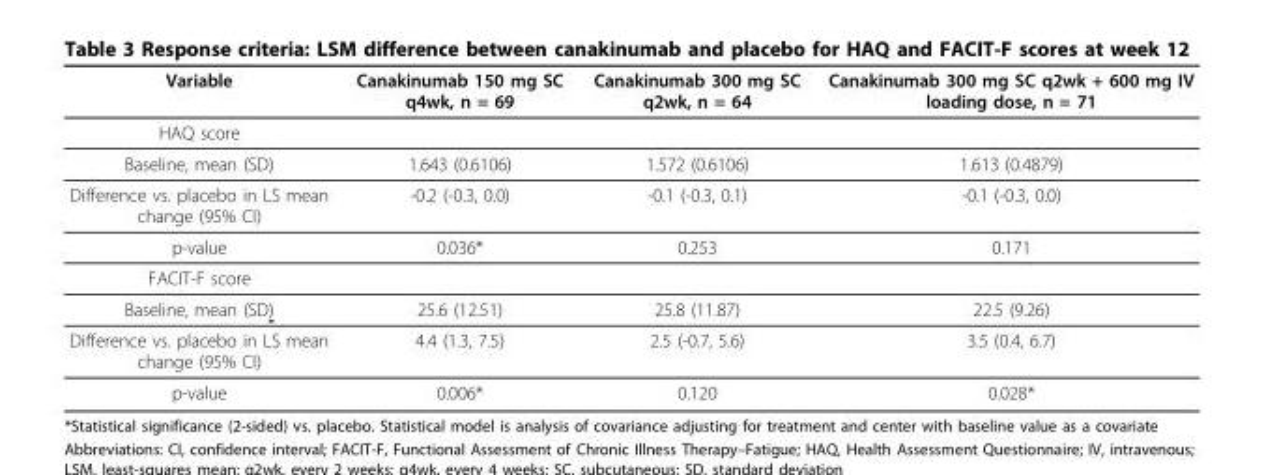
<table><thead><tr><td>Variable</td><td>Canakinumab 150 mg SC q4wk, n = 69</td><td>Canakinumab 300 mg SC q2wk, n = 64</td><td>Canakinumab 300 mg SC q2wk + 600 mg IV loading dose, n = 71</td></tr></thead><tbody><tr><td colspan="4">HAQ score</td></tr><tr><td>Baseline, mean (SD)</td><td>1.643 (0.6106)</td><td>1.572 (0.6106)</td><td>1.613 (0.4879)</td></tr><tr><td>Difference vs. placebo in LS mean change (95% CI)</td><td>-0.2 (-0.3, 0.0)</td><td>-0.1 (-0.3, 0.1)</td><td>-0.1 (-0.3, 0.0)</td></tr><tr><td>p-value</td><td>0.036*</td><td>0.253</td><td>0.171</td></tr><tr><td colspan="4">FACIT-F score</td></tr><tr><td>Baseline, mean (SD)</td><td>25.6 (12.51)</td><td>25.8 (11.87)</td><td>22.5 (9.26)</td></tr><tr><td>Difference vs. placebo in LS mean change (95% CI)</td><td>4.4 (1.3, 7.5)</td><td>2.5 (-0.7, 5.6)</td><td>3.5 (0.4, 6.7)</td></tr><tr><td>p-value</td><td>0.006*</td><td>0.120</td><td>0.028*</td></tr></tbody></table>